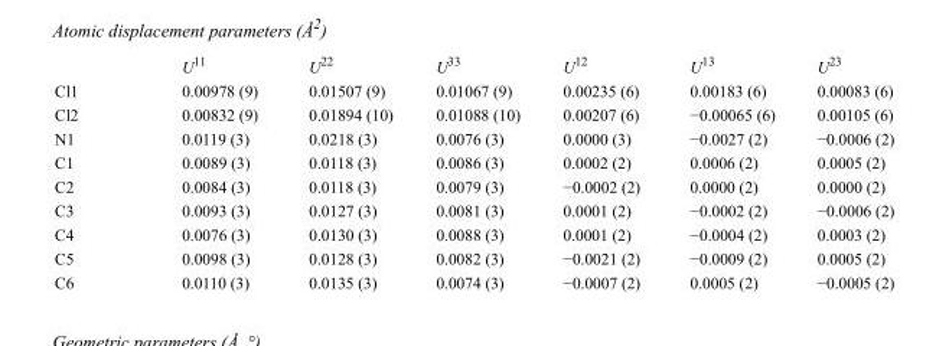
<table><thead><tr><td></td><td>U<sup>11</sup></td><td>U<sup>22</sup></td><td>U<sup>33</sup></td><td>U<sup>12</sup></td><td>U<sup>13</sup></td><td>U<sup>23</sup></td></tr></thead><tbody><tr><td>Cl1</td><td>0.00978 (9)</td><td>0.01507 (9)</td><td>0.01067 (9)</td><td>0.00235 (6)</td><td>0.00183 (6)</td><td>0.00083 (6)</td></tr><tr><td>Cl2</td><td>0.00832 (9)</td><td>0.01894 (10)</td><td>0.01088 (10)</td><td>0.00207 (6)</td><td>−0.00065 (6)</td><td>0.00105 (6)</td></tr><tr><td>N1</td><td>0.0119 (3)</td><td>0.0218 (3)</td><td>0.0076 (3)</td><td>0.0000 (3)</td><td>−0.0027 (2)</td><td>−0.0006 (2)</td></tr><tr><td>C1</td><td>0.0089 (3)</td><td>0.0118 (3)</td><td>0.0086 (3)</td><td>0.0002 (2)</td><td>0.0006 (2)</td><td>0.0005 (2)</td></tr><tr><td>C2</td><td>0.0084 (3)</td><td>0.0118 (3)</td><td>0.0079 (3)</td><td>−0.0002 (2)</td><td>0.0000 (2)</td><td>0.0000 (2)</td></tr><tr><td>C3</td><td>0.0093 (3)</td><td>0.0127 (3)</td><td>0.0081 (3)</td><td>0.0001 (2)</td><td>−0.0002 (2)</td><td>−0.0006 (2)</td></tr><tr><td>C4</td><td>0.0076 (3)</td><td>0.0130 (3)</td><td>0.0088 (3)</td><td>0.0001 (2)</td><td>−0.0004 (2)</td><td>0.0003 (2)</td></tr><tr><td>C5</td><td>0.0098 (3)</td><td>0.0128 (3)</td><td>0.0082 (3)</td><td>−0.0021 (2)</td><td>−0.0009 (2)</td><td>0.0005 (2)</td></tr><tr><td>C6</td><td>0.0110 (3)</td><td>0.0135 (3)</td><td>0.0074 (3)</td><td>−0.0007 (2)</td><td>0.0005 (2)</td><td>−0.0005 (2)</td></tr></tbody></table>